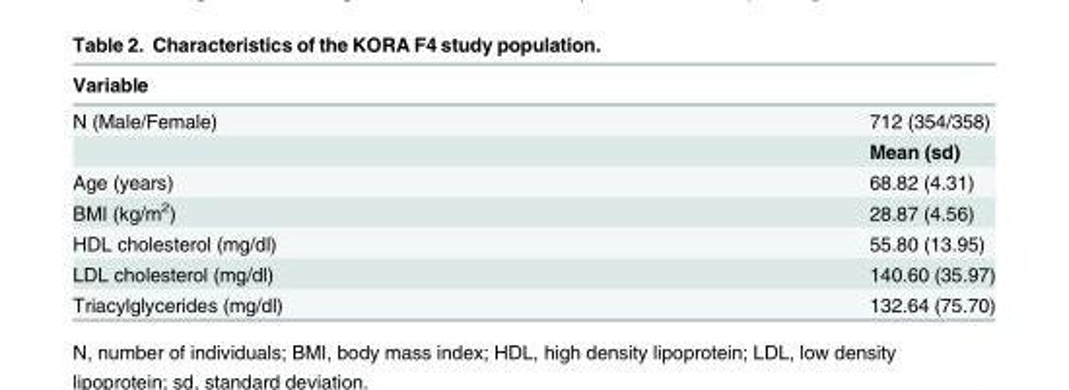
<table><thead><tr><td>Variable</td><td></td></tr></thead><tbody><tr><td rowspan="2">N (Male/Female)</td><td>712 (354/358)</td></tr><tr><td>Mean (sd)</td></tr><tr><td>Age (years)</td><td>68.82 (4.31)</td></tr><tr><td>BMI (kg/m<sup>2</sup>)</td><td>28.87 (4.56)</td></tr><tr><td>HDL cholesterol (mg/dl)</td><td>55.80 (13.95)</td></tr><tr><td>LDL cholesterol (mg/dl)</td><td>140.60 (35.97)</td></tr><tr><td>Triacylglycerides (mg/dl)</td><td>132.64 (75.70)</td></tr></tbody></table>